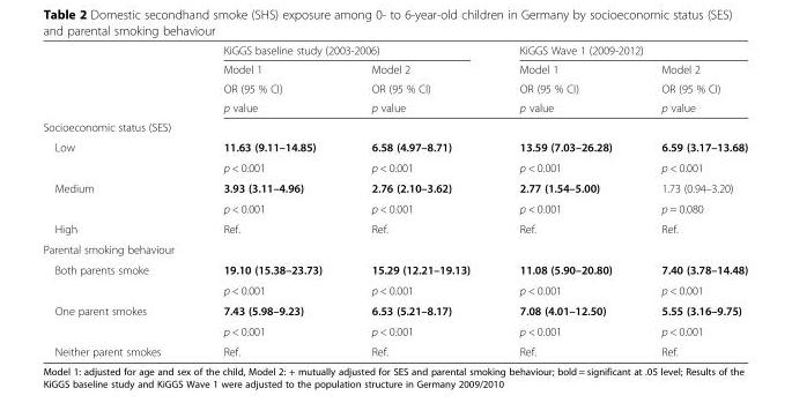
<table><thead><tr><td rowspan="4"></td><td colspan="2">KiGGS baseline study (2003-2006)</td><td colspan="2">KiGGS Wave 1 (2009-2012)</td></tr><tr><td rowspan="3">Model 1 OR (95 % CI) p value</td><td rowspan="3">Model 2 OR (95 % CI) p value</td><td rowspan="3">Model 1 OR (95 % CI) p value</td><td rowspan="3">Model 2 OR (95 % CI) p value</td></tr><tr></tr><tr></tr></thead><tbody><tr><td colspan="5">Socioeconomic status (SES)</td></tr><tr><td rowspan="2">Low</td><td>11.63 (9.11–14.85)</td><td>6.58 (4.97–8.71)</td><td>13.59 (7.03–26.28)</td><td>6.59 (3.17–13.68)</td></tr><tr><td>p &lt; 0.001</td><td>p &lt; 0.001</td><td>p &lt; 0.001</td><td>p &lt; 0.001</td></tr><tr><td rowspan="2">Medium</td><td>3.93 (3.11–4.96)</td><td>2.76 (2.10–3.62)</td><td>2.77 (1.54–5.00)</td><td>1.73 (0.94–3.20)</td></tr><tr><td>p &lt; 0.001</td><td>p &lt; 0.001</td><td>p &lt; 0.001</td><td>p = 0.080</td></tr><tr><td>High</td><td>Ref.</td><td>Ref.</td><td>Ref.</td><td>Ref.</td></tr><tr><td colspan="5">Parental smoking behaviour</td></tr><tr><td rowspan="2">Both parents smoke</td><td>19.10 (15.38–23.73)</td><td>15.29 (12.21–19.13)</td><td>11.08 (5.90–20.80)</td><td>7.40 (3.78–14.48)</td></tr><tr><td>p &lt; 0.001</td><td>p &lt; 0.001</td><td>p &lt; 0.001</td><td>p &lt; 0.001</td></tr><tr><td rowspan="2">One parent smokes</td><td>7.43 (5.98–9.23)</td><td>6.53 (5.21–8.17)</td><td>7.08 (4.01–12.50)</td><td>5.55 (3.16–9.75)</td></tr><tr><td>p &lt; 0.001</td><td>p &lt; 0.001</td><td>p &lt; 0.001</td><td>p &lt; 0.001</td></tr><tr><td>Neither parent smokes</td><td>Ref.</td><td>Ref.</td><td>Ref.</td><td>Ref.</td></tr></tbody></table>